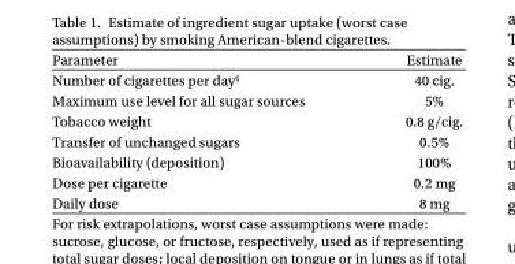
<table><thead><tr><td>Parameter</td><td>Estimate</td></tr></thead><tbody><tr><td>Number of cigarettes per day§</td><td>40 cig.</td></tr><tr><td>Maximum use level for all sugar sources</td><td>5%</td></tr><tr><td>Tobacco weight</td><td>0.8 g/cig.</td></tr><tr><td>Transfer of unchanged sugars</td><td>0.5%</td></tr><tr><td>Bioavailability (deposition)</td><td>100%</td></tr><tr><td>Dose per cigarette</td><td>0.2 mg</td></tr><tr><td>Daily dose</td><td>8 mg</td></tr></tbody></table>